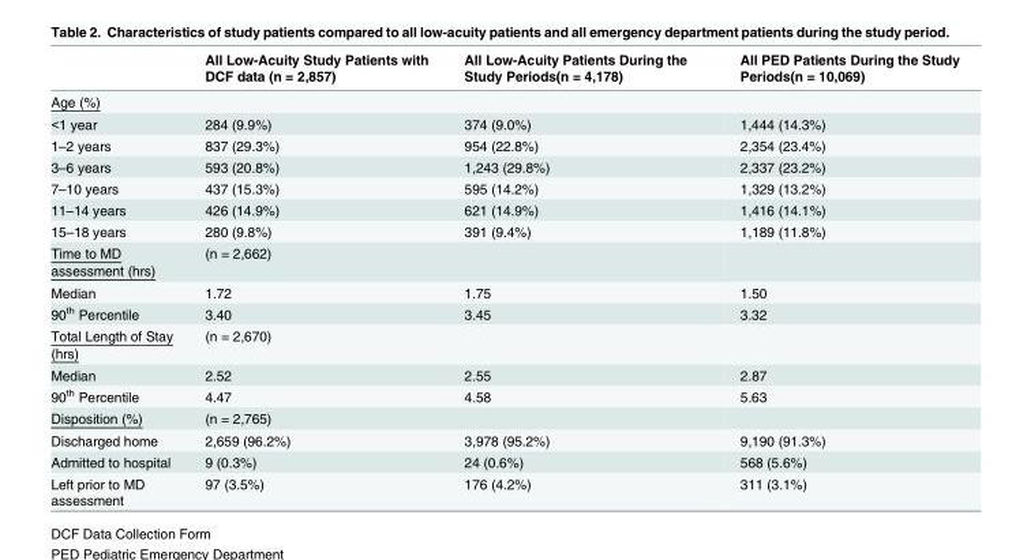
<table><thead><tr><td></td><td>All Low-Acuity Study Patients with DCF data (n = 2,857)</td><td>All Low-Acuity Patients During the Study Periods(n = 4,178)</td><td>All PED Patients During the Study Periods(n = 10,069)</td></tr></thead><tbody><tr><td colspan="4">Age (%)</td></tr><tr><td>&lt;1 year</td><td>284 (9.9%)</td><td>374 (9.0%)</td><td>1,444 (14.3%)</td></tr><tr><td>1–2 years</td><td>837 (29.3%)</td><td>954 (22.8%)</td><td>2,354 (23.4%)</td></tr><tr><td>3–6 years</td><td>593 (20.8%)</td><td>1,243 (29.8%)</td><td>2,337 (23.2%)</td></tr><tr><td>7–10 years</td><td>437 (15.3%)</td><td>595 (14.2%)</td><td>1,329 (13.2%)</td></tr><tr><td>11–14 years</td><td>426 (14.9%)</td><td>621 (14.9%)</td><td>1,416 (14.1%)</td></tr><tr><td>15–18 years</td><td>280 (9.8%)</td><td>391 (9.4%)</td><td>1,189 (11.8%)</td></tr><tr><td>Time to MD assessment (hrs)</td><td>(n = 2,662)</td><td></td><td></td></tr><tr><td>Median</td><td>1.72</td><td>1.75</td><td>1.50</td></tr><tr><td>90<sup>th</sup> Percentile</td><td>3.40</td><td>3.45</td><td>3.32</td></tr><tr><td>Total Length of Stay (hrs)</td><td>(n = 2,670)</td><td></td><td></td></tr><tr><td>Median</td><td>2.52</td><td>2.55</td><td>2.87</td></tr><tr><td>90<sup>th</sup> Percentile</td><td>4.47</td><td>4.58</td><td>5.63</td></tr><tr><td>Disposition (%)</td><td>(n = 2,765)</td><td></td><td></td></tr><tr><td>Discharged home</td><td>2,659 (96.2%)</td><td>3,978 (95.2%)</td><td>9,190 (91.3%)</td></tr><tr><td>Admitted to hospital</td><td>9 (0.3%)</td><td>24 (0.6%)</td><td>568 (5.6%)</td></tr><tr><td>Left prior to MD assessment</td><td>97 (3.5%)</td><td>176 (4.2%)</td><td>311 (3.1%)</td></tr></tbody></table>